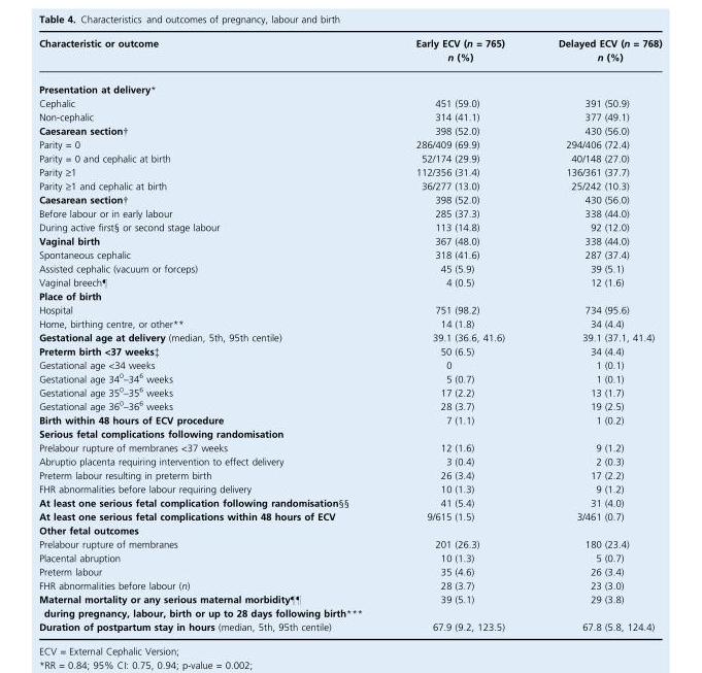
<table><thead><tr><td>Characteristic or outcome</td><td>Early ECV (n = 765) n (%)</td><td>Delayed ECV (n = 768) n (%)</td></tr></thead><tbody><tr><td colspan="3">Presentation at delivery*</td></tr><tr><td>Cephalic</td><td>451 (59.0)</td><td>391 (50.9)</td></tr><tr><td>Non-cephalic</td><td>314 (41.1)</td><td>377 (49.1)</td></tr><tr><td>Caesarean section†</td><td>398 (52.0)</td><td>430 (56.0)</td></tr><tr><td>Parity = 0</td><td>286/409 (69.9)</td><td>294/406 (72.4)</td></tr><tr><td>Parity = 0 and cephalic at birth</td><td>52/174 (29.9)</td><td>40/148 (27.0)</td></tr><tr><td>Parity ‡1</td><td>112/356 (31.4)</td><td>136/361 (37.7)</td></tr><tr><td>Parity ‡1 and cephalic at birth</td><td>36/277 (13.0)</td><td>25/242 (10.3)</td></tr><tr><td>Caesarean section†</td><td>398 (52.0)</td><td>430 (56.0)</td></tr><tr><td>Before labour or in early labour</td><td>285 (37.3)</td><td>338 (44.0)</td></tr><tr><td>During active first§ or second stage labour</td><td>113 (14.8)</td><td>92 (12.0)</td></tr><tr><td>Vaginal birth</td><td>367 (48.0)</td><td>338 (44.0)</td></tr><tr><td>Spontaneous cephalic</td><td>318 (41.6)</td><td>287 (37.4)</td></tr><tr><td>Assisted cephalic (vacuum or forceps)</td><td>45 (5.9)</td><td>39 (5.1)</td></tr><tr><td>Vaginal breech–</td><td>4 (0.5)</td><td>12 (1.6)</td></tr><tr><td colspan="3">Place of birth</td></tr><tr><td>Hospital</td><td>751 (98.2)</td><td>734 (95.6)</td></tr><tr><td>Home, birthing centre, or other**</td><td>14 (1.8)</td><td>34 (4.4)</td></tr><tr><td>Gestational age at delivery (median, 5th, 95th centile)</td><td>39.1 (36.6, 41.6)</td><td>39.1 (37.1, 41.4)</td></tr><tr><td>Preterm birth &lt;37 weeks‡</td><td>50 (6.5)</td><td>34 (4.4)</td></tr><tr><td>Gestational age &lt;34 weeks</td><td>0</td><td>1 (0.1)</td></tr><tr><td>Gestational age 34<sup>0</sup>–34<sup>6</sup> weeks</td><td>5 (0.7)</td><td>1 (0.1)</td></tr><tr><td>Gestational age 35<sup>0</sup>–35<sup>6</sup> weeks</td><td>17 (2.2)</td><td>13 (1.7)</td></tr><tr><td>Gestational age 36<sup>0</sup>–36<sup>6</sup> weeks</td><td>28 (3.7)</td><td>19 (2.5)</td></tr><tr><td>Birth within 48 hours of ECV procedure</td><td>7 (1.1)</td><td>1 (0.2)</td></tr><tr><td colspan="3">Serious fetal complications following randomisation</td></tr><tr><td>Prelabour rupture of membranes &lt;37 weeks</td><td>12 (1.6)</td><td>9 (1.2)</td></tr><tr><td>Abruptio placenta requiring intervention to effect delivery</td><td>3 (0.4)</td><td>2 (0.3)</td></tr><tr><td>Preterm labour resulting in preterm birth</td><td>26 (3.4)</td><td>17 (2.2)</td></tr><tr><td>FHR abnormalities before labour requiring delivery</td><td>10 (1.3)</td><td>9 (1.2)</td></tr><tr><td>At least one serious fetal complication following randomisation§§</td><td>41 (5.4)</td><td>31 (4.0)</td></tr><tr><td>At least one serious fetal complications within 48 hours of ECV</td><td>9/615 (1.5)</td><td>3/461 (0.7)</td></tr><tr><td colspan="3">Other fetal outcomes</td></tr><tr><td>Prelabour rupture of membranes</td><td>201 (26.3)</td><td>180 (23.4)</td></tr><tr><td>Placental abruption</td><td>10 (1.3)</td><td>5 (0.7)</td></tr><tr><td>Preterm labour</td><td>35 (4.6)</td><td>26 (3.4)</td></tr><tr><td>FHR abnormalities before labour (n)</td><td>28 (3.7)</td><td>23 (3.0)</td></tr><tr><td>Maternal mortality or any serious maternal morbidity–– during pregnancy, labour, birth or up to 28 days following birth***</td><td>39 (5.1)</td><td>29 (3.8)</td></tr><tr><td>Duration of postpartum stay in hours (median, 5th, 95th centile)</td><td>67.9 (9.2, 123.5)</td><td>67.8 (5.8, 124.4)</td></tr></tbody></table>